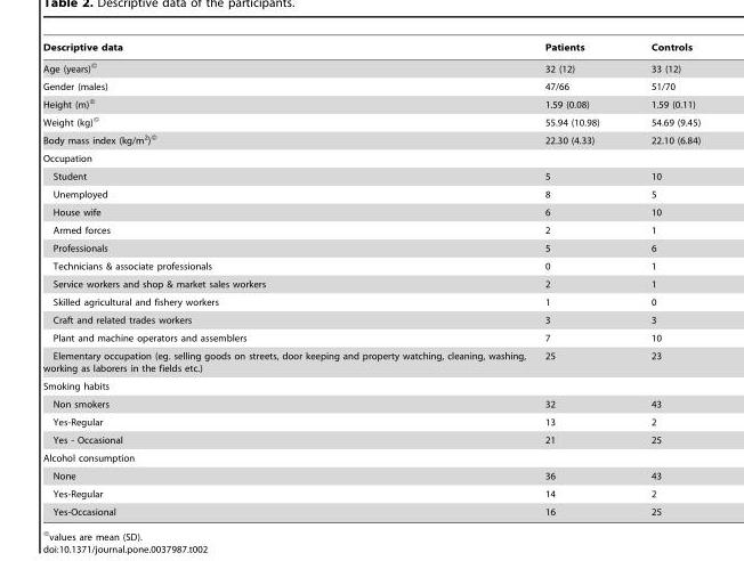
<table><thead><tr><td>Descriptive data</td><td>Patients</td><td>Controls</td></tr></thead><tbody><tr><td>Age (years)©</td><td>32 (12)</td><td>33 (12)</td></tr><tr><td>Gender (males)</td><td>47/66</td><td>51/70</td></tr><tr><td>Height (m)©</td><td>1.59 (0.08)</td><td>1.59 (0.11)</td></tr><tr><td>Weight (kg)©</td><td>55.94 (10.98)</td><td>54.69 (9.45)</td></tr><tr><td>Body mass index (kg/m<sup>2</sup>)©</td><td>22.30 (4.33)</td><td>22.10 (6.84)</td></tr><tr><td colspan="3">Occupation</td></tr><tr><td>Student</td><td>5</td><td>10</td></tr><tr><td>Unemployed</td><td>8</td><td>5</td></tr><tr><td>House wife</td><td>6</td><td>10</td></tr><tr><td>Armed forces</td><td>2</td><td>1</td></tr><tr><td>Professionals</td><td>5</td><td>6</td></tr><tr><td>Technicians &amp; associate professionals</td><td>0</td><td>1</td></tr><tr><td>Service workers and shop &amp; market sales workers</td><td>2</td><td>1</td></tr><tr><td>Skilled agricultural and fishery workers</td><td>1</td><td>0</td></tr><tr><td>Craft and related trades workers</td><td>3</td><td>3</td></tr><tr><td>Plant and machine operators and assemblers</td><td>7</td><td>10</td></tr><tr><td>Elementary occupation (eg. selling goods on streets, door keeping and property watching, cleaning, washing, working as laborers in the fields etc.)</td><td>25</td><td>23</td></tr><tr><td colspan="3">Smoking habits</td></tr><tr><td>Non smokers</td><td>32</td><td>43</td></tr><tr><td>Yes-Regular</td><td>13</td><td>2</td></tr><tr><td>Yes - Occasional</td><td>21</td><td>25</td></tr><tr><td colspan="3">Alcohol consumption</td></tr><tr><td>None</td><td>36</td><td>43</td></tr><tr><td>Yes-Regular</td><td>14</td><td>2</td></tr><tr><td>Yes-Occasional</td><td>16</td><td>25</td></tr></tbody></table>